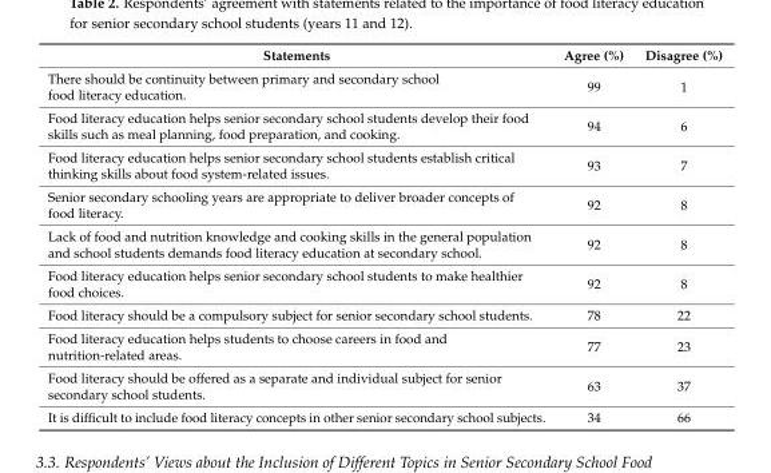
<table><thead><tr><td>Statements</td><td>Agree (%)</td><td>Disagree (%)</td></tr></thead><tbody><tr><td>There should be continuity between primary and secondary school food literacy education.</td><td>99</td><td>1</td></tr><tr><td>Food literacy education helps senior secondary school students develop their food skills such as meal planning, food preparation, and cooking.</td><td>94</td><td>6</td></tr><tr><td>Food literacy education helps senior secondary school students establish critical thinking skills about food system-related issues.</td><td>93</td><td>7</td></tr><tr><td>Senior secondary schooling years are appropriate to deliver broader concepts of food literacy.</td><td>92</td><td>8</td></tr><tr><td>Lack of food and nutrition knowledge and cooking skills in the general population and school students demands food literacy education at secondary school.</td><td>92</td><td>8</td></tr><tr><td>Food literacy education helps senior secondary school students to make healthier food choices.</td><td>92</td><td>8</td></tr><tr><td>Food literacy should be a compulsory subject for senior secondary school students.</td><td>78</td><td>22</td></tr><tr><td>Food literacy education helps students to choose careers in food and nutrition-related areas.</td><td>77</td><td>23</td></tr><tr><td>Food literacy should be offered as a separate and individual subject for senior secondary school students.</td><td>63</td><td>37</td></tr><tr><td>It is difficult to include food literacy concepts in other senior secondary school subjects.</td><td>34</td><td>66</td></tr></tbody></table>